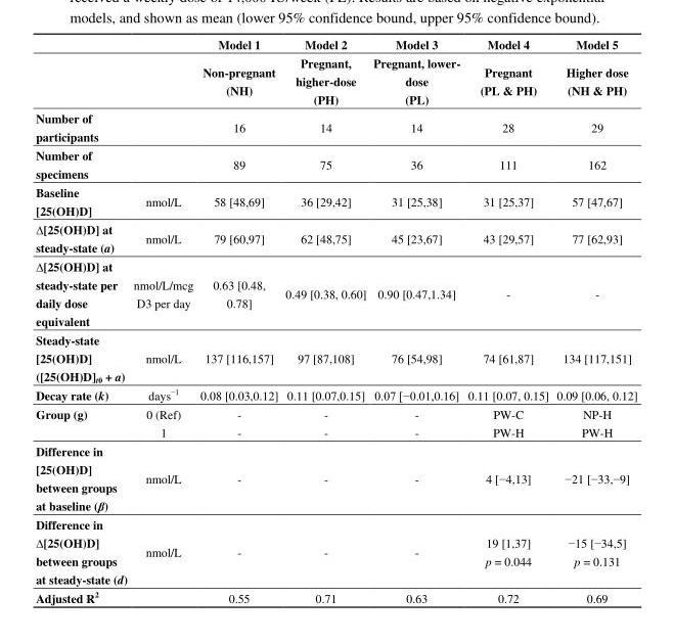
<table><thead><tr><td rowspan="2"></td><td rowspan="2"></td><td rowspan="2">Model 1 Non-pregnant (NH)</td><td rowspan="2">Model 2 Pregnant, higher-dose (PH)</td><td rowspan="2">Model 3 Pregnant, lower- dose (PL)</td><td rowspan="2">Model 4 Pregnant (PL &amp; PH)</td><td rowspan="2">Model 5 Higher dose (NH &amp; PH)</td></tr><tr></tr></thead><tbody><tr><td>Number of participants</td><td></td><td>16</td><td>14</td><td>14</td><td>28</td><td>29</td></tr><tr><td>Number of specimens</td><td></td><td>89</td><td>75</td><td>36</td><td>111</td><td>162</td></tr><tr><td>Baseline [25(OH)D]</td><td>nmol/L</td><td>58 [48,69]</td><td>36 [29,42]</td><td>31 [25,38]</td><td>31 [25,37]</td><td>57 [47,67]</td></tr><tr><td>∆[25(OH)D] at steady-state (a)</td><td>nmol/L</td><td>79 [60,97]</td><td>62 [48,75]</td><td>45 [23,67]</td><td>43 [29,57]</td><td>77 [62,93]</td></tr><tr><td>∆[25(OH)D] at steady-state per daily dose equivalent</td><td>nmol/L/mcg D3 per day</td><td>0.63 [0.48, 0.78]</td><td>0.49 [0.38, 0.60]</td><td>0.90 [0.47,1.34]</td><td>-</td><td>-</td></tr><tr><td>Steady-state [25(OH)D] ([25(OH)D]<sub>t0</sub> + a)</td><td>nmol/L</td><td>137 [116,157]</td><td>97 [87,108]</td><td>76 [54,98]</td><td>74 [61,87]</td><td>134 [117,151]</td></tr><tr><td>Decay rate (k)</td><td>days<sup>−1</sup></td><td>0.08 [0.03,0.12]</td><td>0.11 [0.07,0.15]</td><td>0.07 [−0.01,0.16]</td><td>0.11 [0.07, 0.15]</td><td>0.09 [0.06, 0.12]</td></tr><tr><td rowspan="2">Group (g)</td><td>0 (Ref)</td><td>-</td><td>-</td><td>-</td><td>PW-C</td><td>NP-H</td></tr><tr><td>1</td><td>-</td><td>-</td><td>-</td><td>PW-H</td><td>PW-H</td></tr><tr><td>Difference in [25(OH)D] between groups at baseline (β)</td><td>nmol/L</td><td>-</td><td>-</td><td>-</td><td>4 [−4,13]</td><td>−21 [−33,−9]</td></tr><tr><td rowspan="2">Difference in ∆[25(OH)D] between groups at steady-state (d)</td><td rowspan="2">nmol/L</td><td rowspan="2">-</td><td rowspan="2">-</td><td rowspan="2">-</td><td>19 [1,37]</td><td>−15 [−34,5]</td></tr><tr><td>p = 0.044</td><td>p = 0.131</td></tr><tr><td>Adjusted R<sup>2</sup></td><td></td><td>0.55</td><td>0.71</td><td>0.63</td><td>0.72</td><td>0.69</td></tr></tbody></table>